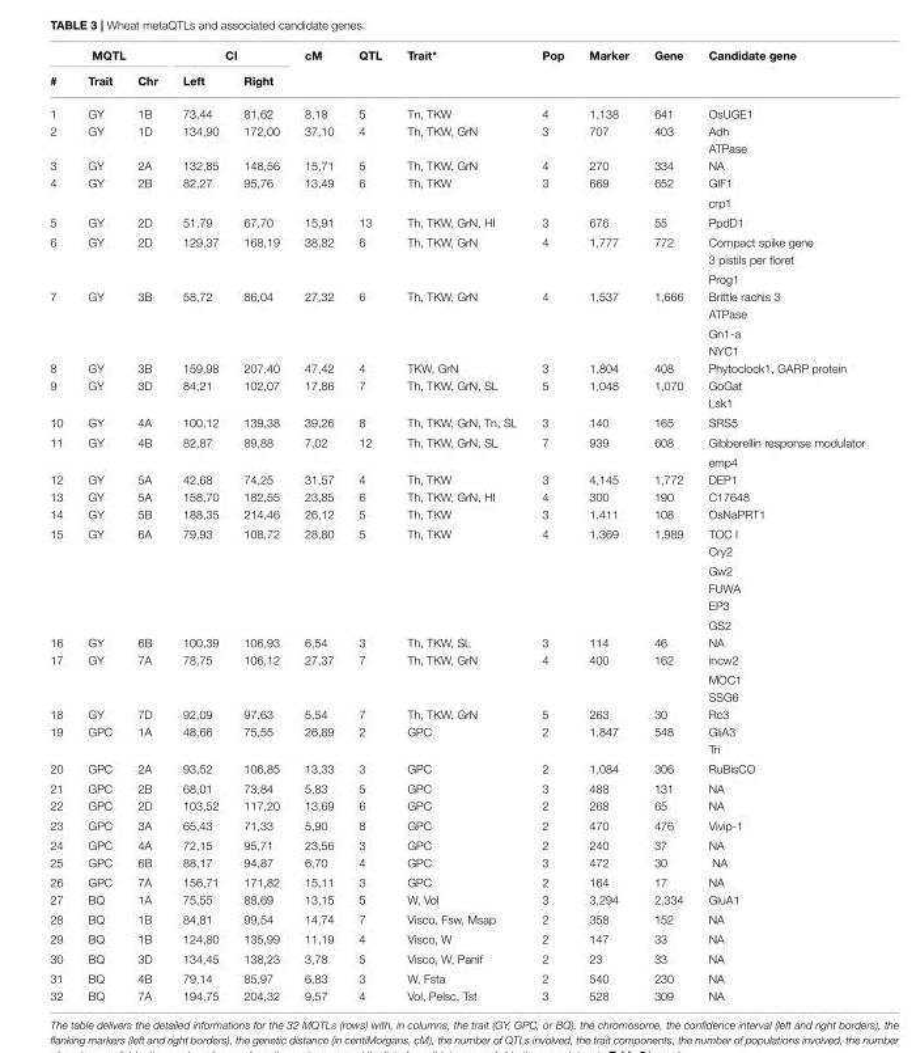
<table><thead><tr><td colspan="3">MQTL</td><td colspan="2">CI</td><td rowspan="2">cM</td><td rowspan="2">QTL</td><td rowspan="2">Trait*</td><td rowspan="2">Pop</td><td rowspan="2">Marker</td><td rowspan="2">Gene</td><td rowspan="2">Candidate gene</td></tr><tr><td>#</td><td>Trait</td><td>Chr</td><td>Left</td><td>Right</td></tr></thead><tbody><tr><td>1</td><td>GY</td><td>1B</td><td>73,44</td><td>81,62</td><td>8,18</td><td>5</td><td>Tn, TKW</td><td>4</td><td>1,138</td><td>641</td><td>OsUGE1</td></tr><tr><td rowspan="2">2</td><td>GY</td><td>1D</td><td>134,90</td><td>172,00</td><td>37,10</td><td>4</td><td>Th, TKW, GrN</td><td>3</td><td>707</td><td>403</td><td>Adh</td></tr><tr><td></td><td></td><td></td><td></td><td></td><td></td><td></td><td></td><td></td><td></td><td>ATPase</td></tr><tr><td>3</td><td>GY</td><td>2A</td><td>132,85</td><td>148,56</td><td>15,71</td><td>5</td><td>Th, TKW, GrN</td><td>4</td><td>270</td><td>334</td><td>NA</td></tr><tr><td rowspan="2">4</td><td>GY</td><td>2B</td><td>82,27</td><td>95,76</td><td>13,49</td><td>6</td><td>Th, TKW</td><td>3</td><td>669</td><td>652</td><td>GIF1</td></tr><tr><td></td><td></td><td></td><td></td><td></td><td></td><td></td><td></td><td></td><td></td><td>crp1</td></tr><tr><td>5</td><td>GY</td><td>2D</td><td>51,79</td><td>67,70</td><td>15,91</td><td>13</td><td>Th, TKW, GrN, HI</td><td>3</td><td>676</td><td>55</td><td>PpdD1</td></tr><tr><td rowspan="3">6</td><td>GY</td><td>2D</td><td>129,37</td><td>168,19</td><td>38,82</td><td>6</td><td>Th, TKW, GrN</td><td>4</td><td>1,777</td><td>772</td><td>Compact spike gene</td></tr><tr><td></td><td></td><td></td><td></td><td></td><td></td><td></td><td></td><td></td><td></td><td>3 pistils per floret</td></tr><tr><td></td><td></td><td></td><td></td><td></td><td></td><td></td><td></td><td></td><td></td><td>Prog1</td></tr><tr><td rowspan="4">7</td><td>GY</td><td>3B</td><td>58,72</td><td>86,04</td><td>27,32</td><td>6</td><td>Th, TKW, GrN</td><td>4</td><td>1,537</td><td>1,666</td><td>Brittle rachis 3</td></tr><tr><td></td><td></td><td></td><td></td><td></td><td></td><td></td><td></td><td></td><td></td><td>ATPase</td></tr><tr><td></td><td></td><td></td><td></td><td></td><td></td><td></td><td></td><td></td><td></td><td>Gn1-a</td></tr><tr><td></td><td></td><td></td><td></td><td></td><td></td><td></td><td></td><td></td><td></td><td>NYC1</td></tr><tr><td>8</td><td>GY</td><td>3B</td><td>159,98</td><td>207,40</td><td>47,42</td><td>4</td><td>TKW, GrN</td><td>3</td><td>1,804</td><td>408</td><td>Phytoclock1, GARP protein</td></tr><tr><td rowspan="2">9</td><td>GY</td><td>3D</td><td>84,21</td><td>102,07</td><td>17,86</td><td>7</td><td>Th, TKW, GrN, SL</td><td>5</td><td>1,048</td><td>1,070</td><td>GoGat</td></tr><tr><td></td><td></td><td></td><td></td><td></td><td></td><td></td><td></td><td></td><td></td><td>Lsk1</td></tr><tr><td>10</td><td>GY</td><td>4A</td><td>100,12</td><td>139,38</td><td>39,26</td><td>8</td><td>Th, TKW, GrN, Tn, SL</td><td>3</td><td>140</td><td>165</td><td>SRS5</td></tr><tr><td rowspan="2">11</td><td>GY</td><td>4B</td><td>82,87</td><td>89,88</td><td>7,02</td><td>12</td><td>Th, TKW, GrN, SL</td><td>7</td><td>939</td><td>608</td><td>Gibberellin response modulator</td></tr><tr><td></td><td></td><td></td><td></td><td></td><td></td><td></td><td></td><td></td><td></td><td>emp4</td></tr><tr><td>12</td><td>GY</td><td>5A</td><td>42,68</td><td>74,25</td><td>31,57</td><td>4</td><td>Th, TKW</td><td>3</td><td>4,145</td><td>1,772</td><td>DEP1</td></tr><tr><td>13</td><td>GY</td><td>5A</td><td>158,70</td><td>182,55</td><td>23,85</td><td>6</td><td>Th, TKW, GrN, HI</td><td>4</td><td>300</td><td>190</td><td>C17648</td></tr><tr><td>14</td><td>GY</td><td>5B</td><td>188,35</td><td>214,46</td><td>26,12</td><td>5</td><td>Th, TKW</td><td>3</td><td>1,411</td><td>108</td><td>OsNaPRT1</td></tr><tr><td rowspan="6">15</td><td>GY</td><td>6A</td><td>79,93</td><td>108,72</td><td>28,80</td><td>5</td><td>Th, TKW</td><td>4</td><td>1,369</td><td>1,989</td><td>TOC I</td></tr><tr><td></td><td></td><td></td><td></td><td></td><td></td><td></td><td></td><td></td><td></td><td>Cry2</td></tr><tr><td></td><td></td><td></td><td></td><td></td><td></td><td></td><td></td><td></td><td></td><td>Gw2</td></tr><tr><td></td><td></td><td></td><td></td><td></td><td></td><td></td><td></td><td></td><td></td><td>FUWA</td></tr><tr><td></td><td></td><td></td><td></td><td></td><td></td><td></td><td></td><td></td><td></td><td>EP3</td></tr><tr><td></td><td></td><td></td><td></td><td></td><td></td><td></td><td></td><td></td><td></td><td>GS2</td></tr><tr><td>16</td><td>GY</td><td>6B</td><td>100,39</td><td>106,93</td><td>6,54</td><td>3</td><td>Th, TKW, SL</td><td>3</td><td>114</td><td>46</td><td>NA</td></tr><tr><td rowspan="3">17</td><td>GY</td><td>7A</td><td>78,75</td><td>106,12</td><td>27,37</td><td>7</td><td>Th, TKW, GrN</td><td>4</td><td>400</td><td>162</td><td>incw2</td></tr><tr><td></td><td></td><td></td><td></td><td></td><td></td><td></td><td></td><td></td><td></td><td>MOC1</td></tr><tr><td></td><td></td><td></td><td></td><td></td><td></td><td></td><td></td><td></td><td></td><td>SSG6</td></tr><tr><td>18</td><td>GY</td><td>7D</td><td>92,09</td><td>97,63</td><td>5,54</td><td>7</td><td>Th, TKW, GrN</td><td>5</td><td>263</td><td>30</td><td>Rc3</td></tr><tr><td rowspan="2">19</td><td>GPC</td><td>1A</td><td>48,66</td><td>75,55</td><td>26,89</td><td>2</td><td>GPC</td><td>2</td><td>1,847</td><td>548</td><td>GliA3</td></tr><tr><td></td><td></td><td></td><td></td><td></td><td></td><td></td><td></td><td></td><td></td><td>Tri</td></tr><tr><td>20</td><td>GPC</td><td>2A</td><td>93,52</td><td>106,85</td><td>13,33</td><td>3</td><td>GPC</td><td>2</td><td>1,084</td><td>306</td><td>RuBisCO</td></tr><tr><td>21</td><td>GPC</td><td>2B</td><td>68,01</td><td>73,84</td><td>5,83</td><td>5</td><td>GPC</td><td>3</td><td>488</td><td>131</td><td>NA</td></tr><tr><td>22</td><td>GPC</td><td>2D</td><td>103,52</td><td>117,20</td><td>13,69</td><td>6</td><td>GPC</td><td>2</td><td>268</td><td>65</td><td>NA</td></tr><tr><td>23</td><td>GPC</td><td>3A</td><td>65,43</td><td>71,33</td><td>5,90</td><td>8</td><td>GPC</td><td>2</td><td>470</td><td>476</td><td>Vivip-1</td></tr><tr><td>24</td><td>GPC</td><td>4A</td><td>72,15</td><td>95,71</td><td>23,56</td><td>3</td><td>GPC</td><td>2</td><td>240</td><td>37</td><td>NA</td></tr><tr><td>25</td><td>GPC</td><td>6B</td><td>88,17</td><td>94,87</td><td>6,70</td><td>4</td><td>GPC</td><td>3</td><td>472</td><td>30</td><td>NA</td></tr><tr><td>26</td><td>GPC</td><td>7A</td><td>156,71</td><td>171,82</td><td>15,11</td><td>3</td><td>GPC</td><td>2</td><td>164</td><td>17</td><td>NA</td></tr><tr><td>27</td><td>BQ</td><td>1A</td><td>75,55</td><td>88,69</td><td>13,15</td><td>5</td><td>W, Vol</td><td>3</td><td>3,294</td><td>2,334</td><td>GluA1</td></tr><tr><td>28</td><td>BQ</td><td>1B</td><td>84,81</td><td>99,54</td><td>14,74</td><td>7</td><td>Visco, Fsw, Msap</td><td>2</td><td>358</td><td>152</td><td>NA</td></tr><tr><td>29</td><td>BQ</td><td>1B</td><td>124,80</td><td>135,99</td><td>11,19</td><td>4</td><td>Visco, W</td><td>2</td><td>147</td><td>33</td><td>NA</td></tr><tr><td>30</td><td>BQ</td><td>3D</td><td>134,45</td><td>138,23</td><td>3,78</td><td>5</td><td>Visco, W, Panif</td><td>2</td><td>23</td><td>33</td><td>NA</td></tr><tr><td>31</td><td>BQ</td><td>4B</td><td>79,14</td><td>85,97</td><td>6,83</td><td>3</td><td>W, Fsta</td><td>2</td><td>540</td><td>230</td><td>NA</td></tr><tr><td>32</td><td>BQ</td><td>7A</td><td>194,75</td><td>204,32</td><td>9,57</td><td>4</td><td>Vol, Pelsc, Tst</td><td>3</td><td>528</td><td>309</td><td>NA</td></tr></tbody></table>